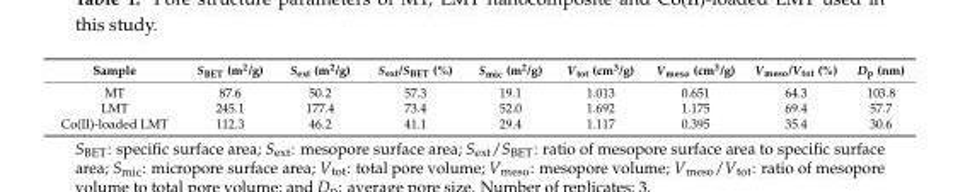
<table><thead><tr><td>Sample</td><td>S<sub>BET</sub> (m<sup>2</sup>/g)</td><td>S<sub>ext</sub> (m<sup>2</sup>/g)</td><td>S<sub>ext</sub>/S<sub>BET</sub> (%)</td><td>S<sub>mic</sub> (m<sup>2</sup>/g)</td><td>V<sub>tot</sub> (cm<sup>3</sup>/g)</td><td>V<sub>meso</sub> (cm<sup>3</sup>/g)</td><td>V<sub>meso</sub>/V<sub>tot</sub> (%)</td><td>D<sub>p</sub> (nm)</td></tr></thead><tbody><tr><td>MT</td><td>87.6</td><td>50.2</td><td>57.3</td><td>19.1</td><td>1.013</td><td>0.651</td><td>64.3</td><td>103.8</td></tr><tr><td>LMT</td><td>245.1</td><td>177.4</td><td>73.4</td><td>52.0</td><td>1.692</td><td>1.175</td><td>69.4</td><td>57.7</td></tr><tr><td>Co(II)-loaded LMT</td><td>112.3</td><td>46.2</td><td>41.1</td><td>29.4</td><td>1.117</td><td>0.395</td><td>35.4</td><td>30.6</td></tr></tbody></table>